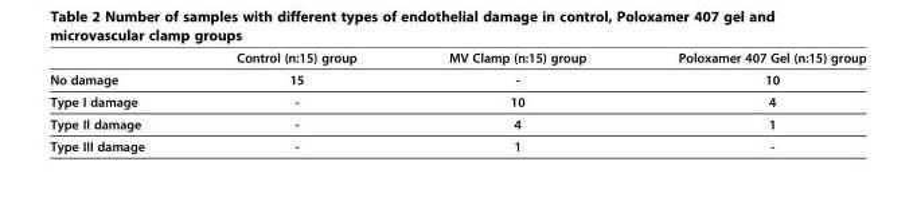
<table><thead><tr><td></td><td>Control (n:15) group</td><td>MV Clamp (n:15) group</td><td>Poloxamer 407 Gel (n:15) group</td></tr></thead><tbody><tr><td>No damage</td><td>15</td><td>-</td><td>10</td></tr><tr><td>Type I damage</td><td>-</td><td>10</td><td>4</td></tr><tr><td>Type II damage</td><td>-</td><td>4</td><td>1</td></tr><tr><td>Type III damage</td><td>-</td><td>1</td><td>-</td></tr></tbody></table>